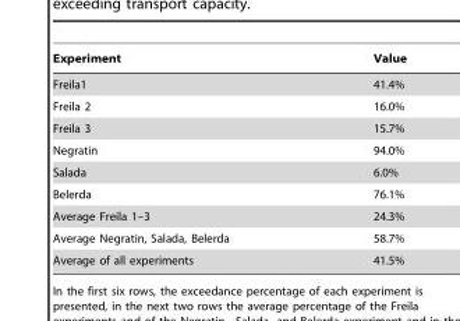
<table><thead><tr><td>Experiment</td><td>Value</td></tr></thead><tbody><tr><td>Freila1</td><td>41.4%</td></tr><tr><td>Freila 2</td><td>16.0%</td></tr><tr><td>Freila 3</td><td>15.7%</td></tr><tr><td>Negratin</td><td>94.0%</td></tr><tr><td>Salada</td><td>6.0%</td></tr><tr><td>Belerda</td><td>76.1%</td></tr><tr><td>Average Freila 1–3</td><td>24.3%</td></tr><tr><td>Average Negratin, Salada, Belerda</td><td>58.7%</td></tr><tr><td>Average of all experiments</td><td>41.5%</td></tr></tbody></table>